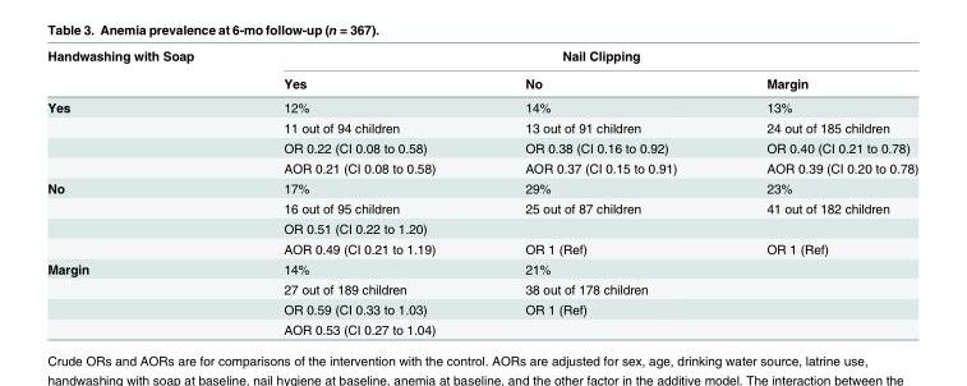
<table><thead><tr><td rowspan="2">Handwashing with Soap</td><td colspan="3">Nail Clipping</td></tr><tr><td>Yes</td><td>No</td><td>Margin</td></tr></thead><tbody><tr><td rowspan="4">Yes</td><td>12%</td><td>14%</td><td>13%</td></tr><tr><td>11 out of 94 children</td><td>13 out of 91 children</td><td>24 out of 185 children</td></tr><tr><td>OR 0.22 (CI 0.08 to 0.58)</td><td>OR 0.38 (CI 0.16 to 0.92)</td><td>OR 0.40 (CI 0.21 to 0.78)</td></tr><tr><td>AOR 0.21 (CI 0.08 to 0.58)</td><td>AOR 0.37 (CI 0.15 to 0.91)</td><td>AOR 0.39 (CI 0.20 to 0.78)</td></tr><tr><td rowspan="4">No</td><td>17%</td><td>29%</td><td>23%</td></tr><tr><td>16 out of 95 children</td><td>25 out of 87 children</td><td>41 out of 182 children</td></tr><tr><td>OR 0.51 (CI 0.22 to 1.20)</td><td></td><td></td></tr><tr><td>AOR 0.49 (CI 0.21 to 1.19)</td><td>OR 1 (Ref)</td><td>OR 1 (Ref)</td></tr><tr><td rowspan="4">Margin</td><td>14%</td><td>21%</td><td></td></tr><tr><td>27 out of 189 children</td><td>38 out of 178 children</td><td></td></tr><tr><td>OR 0.59 (CI 0.33 to 1.03)</td><td>OR 1 (Ref)</td><td></td></tr><tr><td>AOR 0.53 (CI 0.27 to 1.04)</td><td></td><td></td></tr></tbody></table>